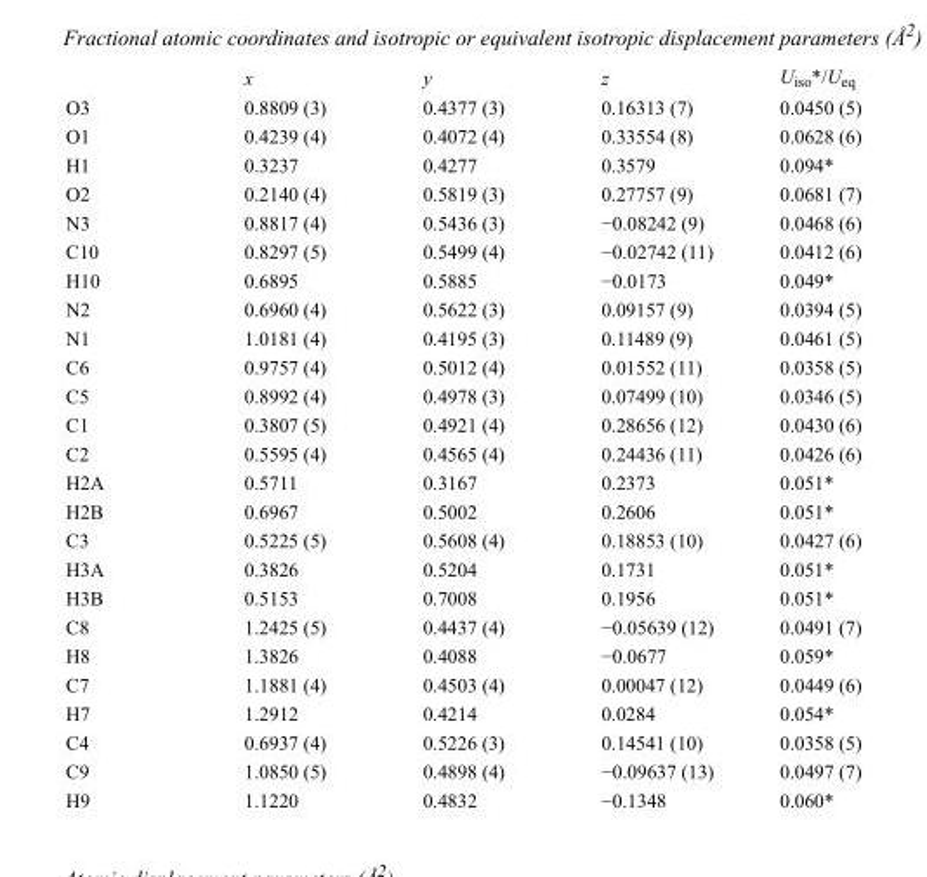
<table><thead><tr><td></td><td>x</td><td>y</td><td>z</td><td>U<sub>iso</sub>*/U<sub>eq</sub></td></tr></thead><tbody><tr><td>O3</td><td>0.8809 (3)</td><td>0.4377 (3)</td><td>0.16313 (7)</td><td>0.0450 (5)</td></tr><tr><td>O1</td><td>0.4239 (4)</td><td>0.4072 (4)</td><td>0.33554 (8)</td><td>0.0628 (6)</td></tr><tr><td>H1</td><td>0.3237</td><td>0.4277</td><td>0.3579</td><td>0.094*</td></tr><tr><td>O2</td><td>0.2140 (4)</td><td>0.5819 (3)</td><td>0.27757 (9)</td><td>0.0681 (7)</td></tr><tr><td>N3</td><td>0.8817 (4)</td><td>0.5436 (3)</td><td>−0.08242 (9)</td><td>0.0468 (6)</td></tr><tr><td>C10</td><td>0.8297 (5)</td><td>0.5499 (4)</td><td>−0.02742 (11)</td><td>0.0412 (6)</td></tr><tr><td>H10</td><td>0.6895</td><td>0.5885</td><td>−0.0173</td><td>0.049*</td></tr><tr><td>N2</td><td>0.6960 (4)</td><td>0.5622 (3)</td><td>0.09157 (9)</td><td>0.0394 (5)</td></tr><tr><td>N1</td><td>1.0181 (4)</td><td>0.4195 (3)</td><td>0.11489 (9)</td><td>0.0461 (5)</td></tr><tr><td>C6</td><td>0.9757 (4)</td><td>0.5012 (4)</td><td>0.01552 (11)</td><td>0.0358 (5)</td></tr><tr><td>C5</td><td>0.8992 (4)</td><td>0.4978 (3)</td><td>0.07499 (10)</td><td>0.0346 (5)</td></tr><tr><td>C1</td><td>0.3807 (5)</td><td>0.4921 (4)</td><td>0.28656 (12)</td><td>0.0430 (6)</td></tr><tr><td>C2</td><td>0.5595 (4)</td><td>0.4565 (4)</td><td>0.24436 (11)</td><td>0.0426 (6)</td></tr><tr><td>H2A</td><td>0.5711</td><td>0.3167</td><td>0.2373</td><td>0.051*</td></tr><tr><td>H2B</td><td>0.6967</td><td>0.5002</td><td>0.2606</td><td>0.051*</td></tr><tr><td>C3</td><td>0.5225 (5)</td><td>0.5608 (4)</td><td>0.18853 (10)</td><td>0.0427 (6)</td></tr><tr><td>H3A</td><td>0.3826</td><td>0.5204</td><td>0.1731</td><td>0.051*</td></tr><tr><td>H3B</td><td>0.5153</td><td>0.7008</td><td>0.1956</td><td>0.051*</td></tr><tr><td>C8</td><td>1.2425 (5)</td><td>0.4437 (4)</td><td>−0.05639 (12)</td><td>0.0491 (7)</td></tr><tr><td>H8</td><td>1.3826</td><td>0.4088</td><td>−0.0677</td><td>0.059*</td></tr><tr><td>C7</td><td>1.1881 (4)</td><td>0.4503 (4)</td><td>0.00047 (12)</td><td>0.0449 (6)</td></tr><tr><td>H7</td><td>1.2912</td><td>0.4214</td><td>0.0284</td><td>0.054*</td></tr><tr><td>C4</td><td>0.6937 (4)</td><td>0.5226 (3)</td><td>0.14541 (10)</td><td>0.0358 (5)</td></tr><tr><td>C9</td><td>1.0850 (5)</td><td>0.4898 (4)</td><td>−0.09637 (13)</td><td>0.0497 (7)</td></tr><tr><td>H9</td><td>1.1220</td><td>0.4832</td><td>−0.1348</td><td>0.060*</td></tr></tbody></table>